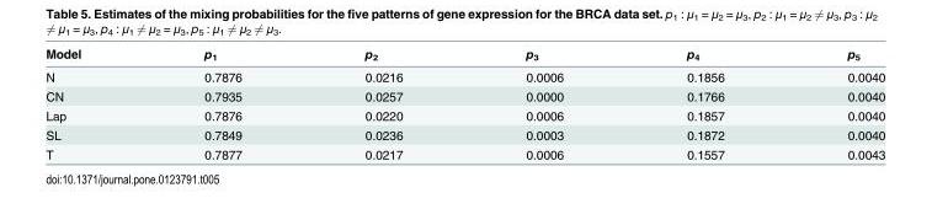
<table><thead><tr><td>Model</td><td>p<sub>1</sub></td><td>p<sub>2</sub></td><td>p<sub>3</sub></td><td>p<sub>4</sub></td><td>p<sub>5</sub></td></tr></thead><tbody><tr><td>N</td><td>0.7876</td><td>0.0216</td><td>0.0006</td><td>0.1856</td><td>0.0040</td></tr><tr><td>CN</td><td>0.7935</td><td>0.0257</td><td>0.0000</td><td>0.1766</td><td>0.0040</td></tr><tr><td>Lap</td><td>0.7876</td><td>0.0220</td><td>0.0006</td><td>0.1857</td><td>0.0040</td></tr><tr><td>SL</td><td>0.7849</td><td>0.0236</td><td>0.0003</td><td>0.1872</td><td>0.0040</td></tr><tr><td>T</td><td>0.7877</td><td>0.0217</td><td>0.0006</td><td>0.1557</td><td>0.0043</td></tr></tbody></table>